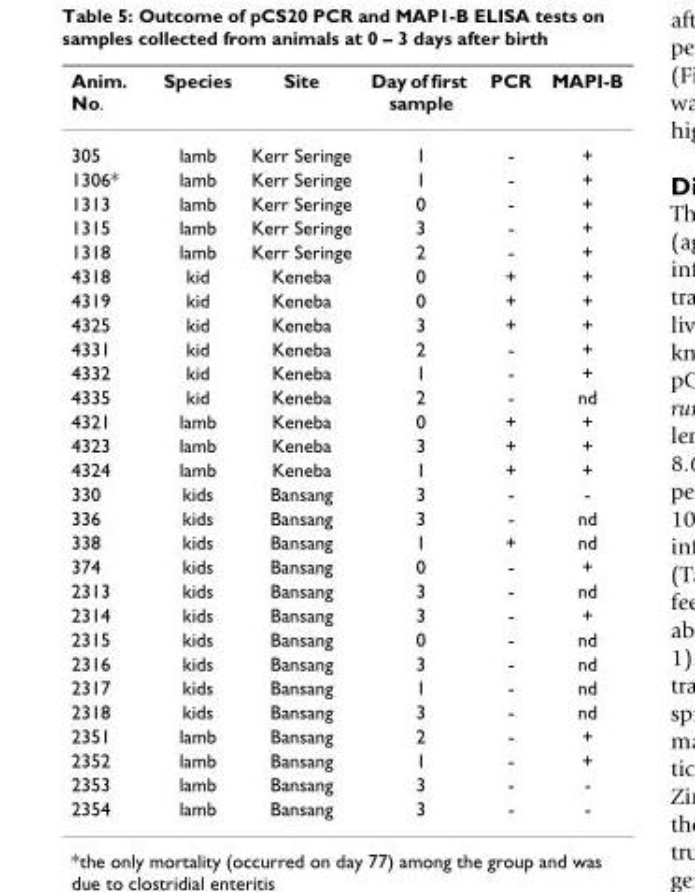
<table><thead><tr><td>Anim. No.</td><td>Species</td><td>Site</td><td>Day of first sample</td><td>PCR</td><td>MAPI-B</td></tr></thead><tbody><tr><td>305</td><td>lamb</td><td>Kerr Seringe</td><td>1</td><td>-</td><td>+</td></tr><tr><td>1306*</td><td>lamb</td><td>Kerr Seringe</td><td>1</td><td>-</td><td>+</td></tr><tr><td>1313</td><td>lamb</td><td>Kerr Seringe</td><td>0</td><td>-</td><td>+</td></tr><tr><td>1315</td><td>lamb</td><td>Kerr Seringe</td><td>3</td><td>-</td><td>+</td></tr><tr><td>1318</td><td>lamb</td><td>Kerr Seringe</td><td>2</td><td>-</td><td>+</td></tr><tr><td>4318</td><td>kid</td><td>Keneba</td><td>0</td><td>+</td><td>+</td></tr><tr><td>4319</td><td>kid</td><td>Keneba</td><td>0</td><td>+</td><td>+</td></tr><tr><td>4325</td><td>kid</td><td>Keneba</td><td>3</td><td>+</td><td>+</td></tr><tr><td>4331</td><td>kid</td><td>Keneba</td><td>2</td><td>-</td><td>+</td></tr><tr><td>4332</td><td>kid</td><td>Keneba</td><td>1</td><td>-</td><td>+</td></tr><tr><td>4335</td><td>kid</td><td>Keneba</td><td>2</td><td>-</td><td>nd</td></tr><tr><td>4321</td><td>lamb</td><td>Keneba</td><td>0</td><td>+</td><td>+</td></tr><tr><td>4323</td><td>lamb</td><td>Keneba</td><td>3</td><td>+</td><td>+</td></tr><tr><td>4324</td><td>lamb</td><td>Keneba</td><td>1</td><td>+</td><td>+</td></tr><tr><td>330</td><td>kids</td><td>Bansang</td><td>3</td><td>-</td><td>-</td></tr><tr><td>336</td><td>kids</td><td>Bansang</td><td>3</td><td>-</td><td>nd</td></tr><tr><td>338</td><td>kids</td><td>Bansang</td><td>1</td><td>+</td><td>nd</td></tr><tr><td>374</td><td>kids</td><td>Bansang</td><td>0</td><td>-</td><td>+</td></tr><tr><td>2313</td><td>kids</td><td>Bansang</td><td>3</td><td>-</td><td>nd</td></tr><tr><td>2314</td><td>kids</td><td>Bansang</td><td>3</td><td>-</td><td>+</td></tr><tr><td>2315</td><td>kids</td><td>Bansang</td><td>0</td><td>-</td><td>nd</td></tr><tr><td>2316</td><td>kids</td><td>Bansang</td><td>3</td><td>-</td><td>nd</td></tr><tr><td>2317</td><td>kids</td><td>Bansang</td><td>1</td><td>-</td><td>nd</td></tr><tr><td>2318</td><td>kids</td><td>Bansang</td><td>3</td><td>-</td><td>nd</td></tr><tr><td>2351</td><td>lamb</td><td>Bansang</td><td>2</td><td>-</td><td>+</td></tr><tr><td>2352</td><td>lamb</td><td>Bansang</td><td>1</td><td>-</td><td>+</td></tr><tr><td>2353</td><td>lamb</td><td>Bansang</td><td>3</td><td>-</td><td>-</td></tr><tr><td>2354</td><td>lamb</td><td>Bansang</td><td>3</td><td>-</td><td>-</td></tr></tbody></table>